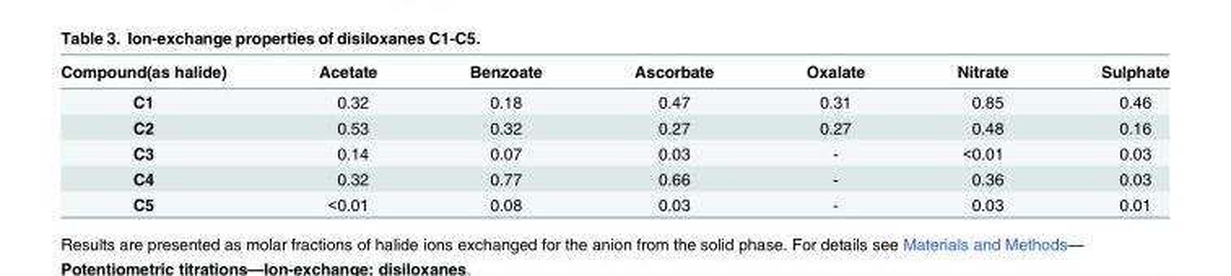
<table><thead><tr><td>Compound(as halide)</td><td>Acetate</td><td>Benzoate</td><td>Ascorbate</td><td>Oxalate</td><td>Nitrate</td><td>Sulphate</td></tr></thead><tbody><tr><td>C1</td><td>0.32</td><td>0.18</td><td>0.47</td><td>0.31</td><td>0.85</td><td>0.46</td></tr><tr><td>C2</td><td>0.53</td><td>0.32</td><td>0.27</td><td>0.27</td><td>0.48</td><td>0.16</td></tr><tr><td>C3</td><td>0.14</td><td>0.07</td><td>0.03</td><td>-</td><td>&lt;0.01</td><td>0.03</td></tr><tr><td>C4</td><td>0.32</td><td>0.77</td><td>0.66</td><td>-</td><td>0.36</td><td>0.03</td></tr><tr><td>C5</td><td>&lt;0.01</td><td>0.08</td><td>0.03</td><td>-</td><td>0.03</td><td>0.01</td></tr></tbody></table>